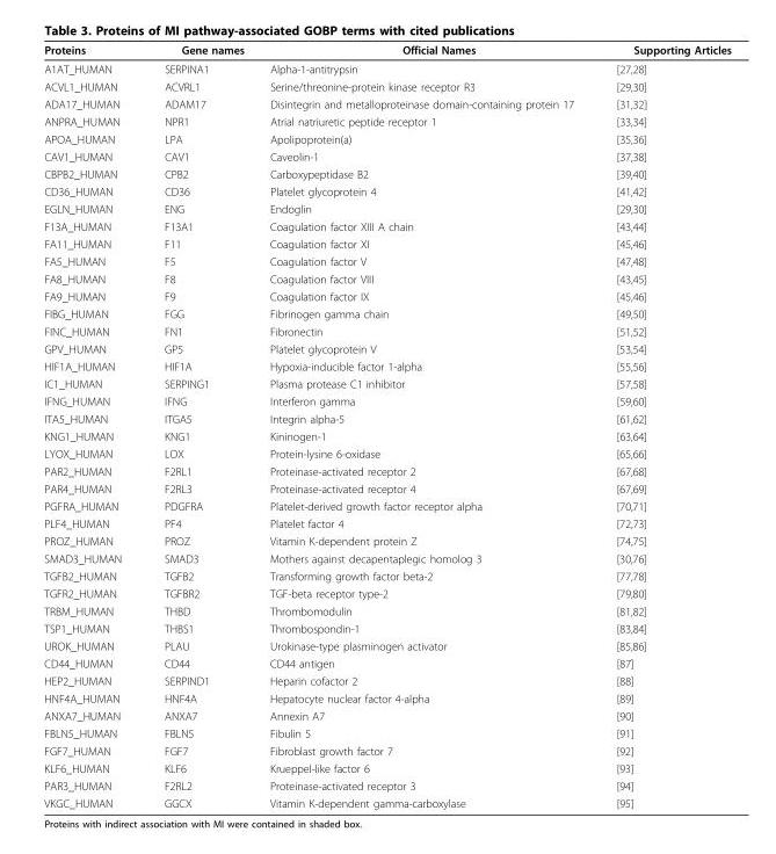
<table><thead><tr><td>Proteins</td><td>Gene names</td><td>Official Names</td><td>Supporting Articles</td></tr></thead><tbody><tr><td>A1AT_HUMAN</td><td>SERPINA1</td><td>Alpha-1-antitrypsin</td><td>[27,28]</td></tr><tr><td>ACVL1_HUMAN</td><td>ACVRL1</td><td>Serine/threonine-protein kinase receptor R3</td><td>[29,30]</td></tr><tr><td>ADA17_HUMAN</td><td>ADAM17</td><td>Disintegrin and metalloproteinase domain-containing protein 17</td><td>[31,32]</td></tr><tr><td>ANPRA_HUMAN</td><td>NPR1</td><td>Atrial natriuretic peptide receptor 1</td><td>[33,34]</td></tr><tr><td>APOA_HUMAN</td><td>LPA</td><td>Apolipoprotein(a)</td><td>[35,36]</td></tr><tr><td>CAV1_HUMAN</td><td>CAV1</td><td>Caveolin-1</td><td>[37,38]</td></tr><tr><td>CBPB2_HUMAN</td><td>CPB2</td><td>Carboxypeptidase B2</td><td>[39,40]</td></tr><tr><td>CD36_HUMAN</td><td>CD36</td><td>Platelet glycoprotein 4</td><td>[41,42]</td></tr><tr><td>EGLN_HUMAN</td><td>ENG</td><td>Endoglin</td><td>[29,30]</td></tr><tr><td>F13A_HUMAN</td><td>F13A1</td><td>Coagulation factor XIII A chain</td><td>[43,44]</td></tr><tr><td>FA11_HUMAN</td><td>F11</td><td>Coagulation factor XI</td><td>[45,46]</td></tr><tr><td>FA5_HUMAN</td><td>F5</td><td>Coagulation factor V</td><td>[47,48]</td></tr><tr><td>FA8_HUMAN</td><td>F8</td><td>Coagulation factor VIII</td><td>[43,45]</td></tr><tr><td>FA9_HUMAN</td><td>F9</td><td>Coagulation factor IX</td><td>[45,46]</td></tr><tr><td>FIBG_HUMAN</td><td>FGG</td><td>Fibrinogen gamma chain</td><td>[49,50]</td></tr><tr><td>FINC_HUMAN</td><td>FN1</td><td>Fibronectin</td><td>[51,52]</td></tr><tr><td>GPV_HUMAN</td><td>GP5</td><td>Platelet glycoprotein V</td><td>[53,54]</td></tr><tr><td>HIF1A_HUMAN</td><td>HIF1A</td><td>Hypoxia-inducible factor 1-alpha</td><td>[55,56]</td></tr><tr><td>IC1_HUMAN</td><td>SERPING1</td><td>Plasma protease C1 inhibitor</td><td>[57,58]</td></tr><tr><td>IFNG_HUMAN</td><td>IFNG</td><td>Interferon gamma</td><td>[59,60]</td></tr><tr><td>ITA5_HUMAN</td><td>ITGA5</td><td>Integrin alpha-5</td><td>[61,62]</td></tr><tr><td>KNG1_HUMAN</td><td>KNG1</td><td>Kininogen-1</td><td>[63,64]</td></tr><tr><td>LYOX_HUMAN</td><td>LOX</td><td>Protein-lysine 6-oxidase</td><td>[65,66]</td></tr><tr><td>PAR2_HUMAN</td><td>F2RL1</td><td>Proteinase-activated receptor 2</td><td>[67,68]</td></tr><tr><td>PAR4_HUMAN</td><td>F2RL3</td><td>Proteinase-activated receptor 4</td><td>[67,69]</td></tr><tr><td>PGFRA_HUMAN</td><td>PDGFRA</td><td>Platelet-derived growth factor receptor alpha</td><td>[70,71]</td></tr><tr><td>PLF4_HUMAN</td><td>PF4</td><td>Platelet factor 4</td><td>[72,73]</td></tr><tr><td>PROZ_HUMAN</td><td>PROZ</td><td>Vitamin K-dependent protein Z</td><td>[74,75]</td></tr><tr><td>SMAD3_HUMAN</td><td>SMAD3</td><td>Mothers against decapentaplegic homolog 3</td><td>[30,76]</td></tr><tr><td>TGFB2_HUMAN</td><td>TGFB2</td><td>Transforming growth factor beta-2</td><td>[77,78]</td></tr><tr><td>TGFR2_HUMAN</td><td>TGFBR2</td><td>TGF-beta receptor type-2</td><td>[79,80]</td></tr><tr><td>TRBM_HUMAN</td><td>THBD</td><td>Thrombomodulin</td><td>[81,82]</td></tr><tr><td>TSP1_HUMAN</td><td>THBS1</td><td>Thrombospondin-1</td><td>[83,84]</td></tr><tr><td>UROK_HUMAN</td><td>PLAU</td><td>Urokinase-type plasminogen activator</td><td>[85,86]</td></tr><tr><td>CD44_HUMAN</td><td>CD44</td><td>CD44 antigen</td><td>[87]</td></tr><tr><td>HEP2_HUMAN</td><td>SERPIND1</td><td>Heparin cofactor 2</td><td>[88]</td></tr><tr><td>HNF4A_HUMAN</td><td>HNF4A</td><td>Hepatocyte nuclear factor 4-alpha</td><td>[89]</td></tr><tr><td>ANXA7_HUMAN</td><td>ANXA7</td><td>Annexin A7</td><td>[90]</td></tr><tr><td>FBLN5_HUMAN</td><td>FBLN5</td><td>Fibulin 5</td><td>[91]</td></tr><tr><td>FGF7_HUMAN</td><td>FGF7</td><td>Fibroblast growth factor 7</td><td>[92]</td></tr><tr><td>KLF6_HUMAN</td><td>KLF6</td><td>Krueppel-like factor 6</td><td>[93]</td></tr><tr><td>PAR3_HUMAN</td><td>F2RL2</td><td>Proteinase-activated receptor 3</td><td>[94]</td></tr><tr><td>VKGC_HUMAN</td><td>GGCX</td><td>Vitamin K-dependent gamma-carboxylase</td><td>[95]</td></tr></tbody></table>